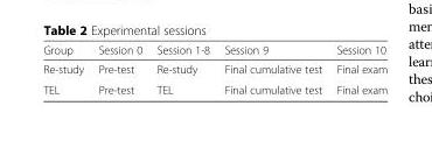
<table><thead><tr><td>Group</td><td>Session 0</td><td>Session 1-8</td><td>Session 9</td><td>Session 10</td></tr></thead><tbody><tr><td>Re-study</td><td>Pre-test</td><td>Re-study</td><td>Final cumulative test</td><td>Final exam</td></tr><tr><td>TEL</td><td>Pre-test</td><td>TEL</td><td>Final cumulative test</td><td>Final exam</td></tr></tbody></table>